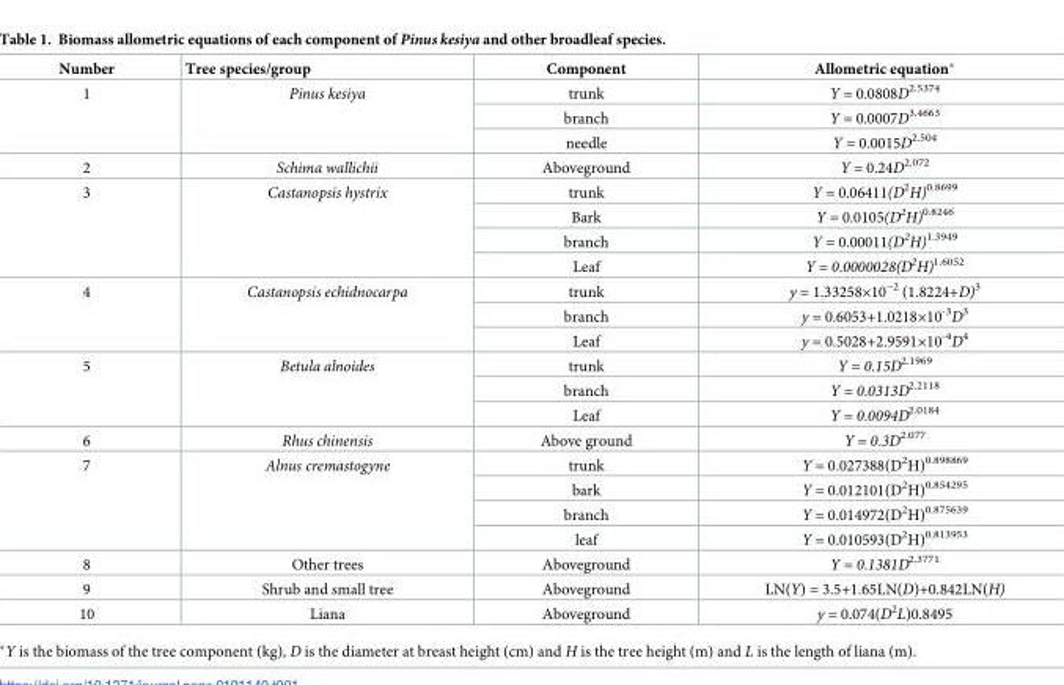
<table><thead><tr><td>Number</td><td>Tree species/group</td><td>Component</td><td>Allometric equation*</td></tr></thead><tbody><tr><td rowspan="3">1</td><td rowspan="3">Pinus kesiya</td><td>trunk</td><td>Y = 0.0808D<sup>2.5374</sup></td></tr><tr><td>branch</td><td>Y = 0.0007D<sup>3.4663</sup></td></tr><tr><td>needle</td><td>Y = 0.0015D<sup>2.504</sup></td></tr><tr><td>2</td><td>Schima wallichii</td><td>Aboveground</td><td>Y = 0.24D<sup>2.072</sup></td></tr><tr><td rowspan="4">3</td><td rowspan="4">Castanopsis hystrix</td><td>trunk</td><td>Y = 0.06411(D<sup>2</sup>H)<sup>0.8699</sup></td></tr><tr><td>Bark</td><td>Y = 0.0105(D<sup>2</sup>H)<sup>0.8246</sup></td></tr><tr><td>branch</td><td>Y = 0.00011(D<sup>2</sup>H)<sup>1.3949</sup></td></tr><tr><td>Leaf</td><td>Y = 0.0000028(D<sup>2</sup>H)<sup>1.6052</sup></td></tr><tr><td rowspan="3">4</td><td rowspan="3">Castanopsis echidnocarpa</td><td>trunk</td><td>y = 1.33258×10<sup>−2</sup> (1.8224+D)<sup>3</sup></td></tr><tr><td>branch</td><td>y = 0.6053+1.0218×10<sup>-3</sup>D<sup>3</sup></td></tr><tr><td>Leaf</td><td>y = 0.5028+2.9591×10<sup>-4</sup>D<sup>4</sup></td></tr><tr><td rowspan="3">5</td><td rowspan="3">Betula alnoides</td><td>trunk</td><td>Y = 0.15D<sup>2.1969</sup></td></tr><tr><td>branch</td><td>Y = 0.0313D<sup>2.2118</sup></td></tr><tr><td>Leaf</td><td>Y = 0.0094D<sup>2.0184</sup></td></tr><tr><td>6</td><td>Rhus chinensis</td><td>Above ground</td><td>Y = 0.3D<sup>2.077</sup></td></tr><tr><td rowspan="4">7</td><td rowspan="4">Alnus cremastogyne</td><td>trunk</td><td>Y = 0.027388(D<sup>2</sup>H)<sup>0.898869</sup></td></tr><tr><td>bark</td><td>Y = 0.012101(D<sup>2</sup>H)<sup>0.854295</sup></td></tr><tr><td>branch</td><td>Y = 0.014972(D<sup>2</sup>H)<sup>0.875639</sup></td></tr><tr><td>leaf</td><td>Y = 0.010593(D<sup>2</sup>H)<sup>0.813953</sup></td></tr><tr><td>8</td><td>Other trees</td><td>Aboveground</td><td>Y = 0.1381D<sup>2.3771</sup></td></tr><tr><td>9</td><td>Shrub and small tree</td><td>Aboveground</td><td>LN(Y) = 3.5+1.65LN(D)+0.842LN(H)</td></tr><tr><td>10</td><td>Liana</td><td>Aboveground</td><td>y = 0.074(D<sup>2</sup>L)0.8495</td></tr></tbody></table>